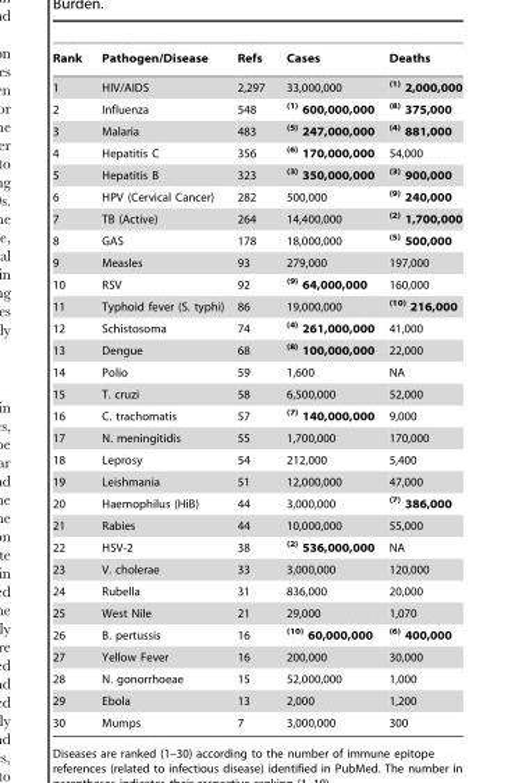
<table><thead><tr><td>Rank</td><td>Pathogen/Disease</td><td>Refs</td><td>Cases</td><td>Deaths</td></tr></thead><tbody><tr><td>1</td><td>HIV/AIDS</td><td>2,297</td><td>33,000,000</td><td><sup>(1)</sup> 2,000,000</td></tr><tr><td>2</td><td>Influenza</td><td>548</td><td><sup>(1)</sup> 600,000,000</td><td><sup>(8)</sup> 375,000</td></tr><tr><td>3</td><td>Malaria</td><td>483</td><td><sup>(5)</sup> 247,000,000</td><td><sup>(4)</sup> 881,000</td></tr><tr><td>4</td><td>Hepatitis C</td><td>356</td><td><sup>(6)</sup> 170,000,000</td><td>54,000</td></tr><tr><td>5</td><td>Hepatitis B</td><td>323</td><td><sup>(3)</sup> 350,000,000</td><td><sup>(3)</sup> 900,000</td></tr><tr><td>6</td><td>HPV (Cervical Cancer)</td><td>282</td><td>500,000</td><td><sup>(9)</sup> 240,000</td></tr><tr><td>7</td><td>TB (Active)</td><td>264</td><td>14,400,000</td><td><sup>(2)</sup> 1,700,000</td></tr><tr><td>8</td><td>GAS</td><td>178</td><td>18,000,000</td><td><sup>(5)</sup> 500,000</td></tr><tr><td>9</td><td>Measles</td><td>93</td><td>279,000</td><td>197,000</td></tr><tr><td>10</td><td>RSV</td><td>92</td><td><sup>(9)</sup> 64,000,000</td><td>160,000</td></tr><tr><td>11</td><td>Typhoid fever (S. typhi)</td><td>86</td><td>19,000,000</td><td><sup>(10)</sup> 216,000</td></tr><tr><td>12</td><td>Schistosoma</td><td>74</td><td><sup>(4)</sup> 261,000,000</td><td>41,000</td></tr><tr><td>13</td><td>Dengue</td><td>68</td><td><sup>(8)</sup> 100,000,000</td><td>22,000</td></tr><tr><td>14</td><td>Polio</td><td>59</td><td>1,600</td><td>NA</td></tr><tr><td>15</td><td>T. cruzi</td><td>58</td><td>6,500,000</td><td>52,000</td></tr><tr><td>16</td><td>C. trachomatis</td><td>57</td><td><sup>(7)</sup> 140,000,000</td><td>9,000</td></tr><tr><td>17</td><td>N. meningitidis</td><td>55</td><td>1,700,000</td><td>170,000</td></tr><tr><td>18</td><td>Leprosy</td><td>54</td><td>212,000</td><td>5,400</td></tr><tr><td>19</td><td>Leishmania</td><td>51</td><td>12,000,000</td><td>47,000</td></tr><tr><td>20</td><td>Haemophilus (HiB)</td><td>44</td><td>3,000,000</td><td><sup>(7)</sup> 386,000</td></tr><tr><td>21</td><td>Rabies</td><td>44</td><td>10,000,000</td><td>55,000</td></tr><tr><td>22</td><td>HSV-2</td><td>38</td><td><sup>(2)</sup> 536,000,000</td><td>NA</td></tr><tr><td>23</td><td>V. cholerae</td><td>33</td><td>3,000,000</td><td>120,000</td></tr><tr><td>24</td><td>Rubella</td><td>31</td><td>836,000</td><td>20,000</td></tr><tr><td>25</td><td>West Nile</td><td>21</td><td>29,000</td><td>1,070</td></tr><tr><td>26</td><td>B. pertussis</td><td>16</td><td><sup>(10)</sup> 60,000,000</td><td><sup>(6)</sup> 400,000</td></tr><tr><td>27</td><td>Yellow Fever</td><td>16</td><td>200,000</td><td>30,000</td></tr><tr><td>28</td><td>N. gonorrhoeae</td><td>15</td><td>52,000,000</td><td>1,000</td></tr><tr><td>29</td><td>Ebola</td><td>13</td><td>2,000</td><td>1,200</td></tr><tr><td>30</td><td>Mumps</td><td>7</td><td>3,000,000</td><td>300</td></tr></tbody></table>